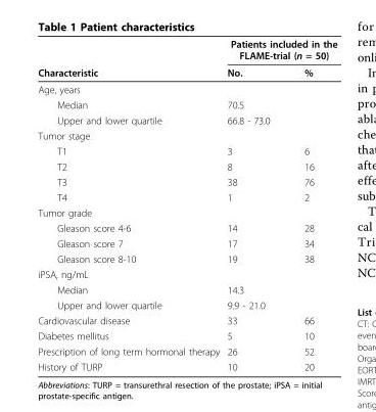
<table><thead><tr><td rowspan="2">Characteristic</td><td colspan="2">Patients included in the FLAME-trial (n = 50)</td></tr><tr><td>No.</td><td>%</td></tr></thead><tbody><tr><td colspan="3">Age, years</td></tr><tr><td>Median</td><td>70.5</td><td></td></tr><tr><td>Upper and lower quartile</td><td>66.8 - 73.0</td><td></td></tr><tr><td colspan="3">Tumor stage</td></tr><tr><td>T1</td><td>3</td><td>6</td></tr><tr><td>T2</td><td>8</td><td>16</td></tr><tr><td>T3</td><td>38</td><td>76</td></tr><tr><td>T4</td><td>1</td><td>2</td></tr><tr><td colspan="3">Tumor grade</td></tr><tr><td>Gleason score 4-6</td><td>14</td><td>28</td></tr><tr><td>Gleason score 7</td><td>17</td><td>34</td></tr><tr><td>Gleason score 8-10</td><td>19</td><td>38</td></tr><tr><td colspan="3">iPSA, ng/mL</td></tr><tr><td>Median</td><td>14.3</td><td></td></tr><tr><td>Upper and lower quartile</td><td>9.9 - 21.0</td><td></td></tr><tr><td>Cardiovascular disease</td><td>33</td><td>66</td></tr><tr><td>Diabetes mellitus</td><td>5</td><td>10</td></tr><tr><td>Prescription of long term hormonal therapy</td><td>26</td><td>52</td></tr><tr><td>History of TURP</td><td>10</td><td>20</td></tr></tbody></table>